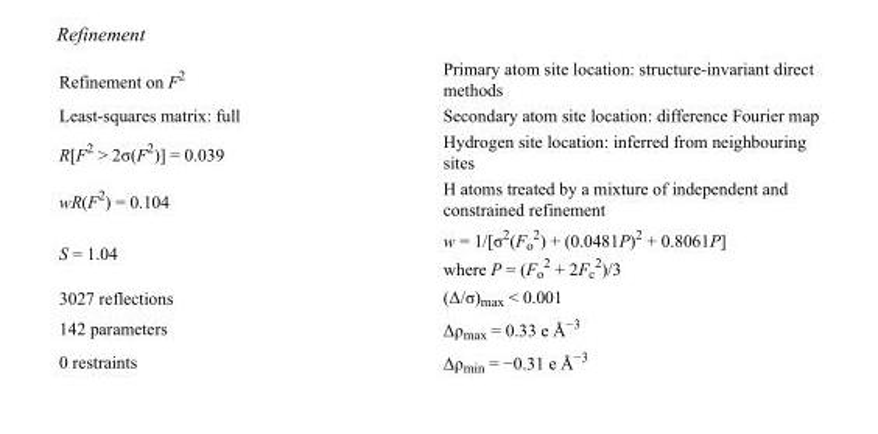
<table><tbody><tr><td>Refinement on F<sup>2</sup></td><td>Primary atom site location: structure-invariant direct methods</td></tr><tr><td>Least-squares matrix: full</td><td>Secondary atom site location: difference Fourier map</td></tr><tr><td>R[F<sup>2</sup> &gt; 2σ(F<sup>2</sup>)] = 0.039</td><td>Hydrogen site location: inferred from neighbouring sites</td></tr><tr><td>wR(F<sup>2</sup>) = 0.104</td><td>H atoms treated by a mixture of independent and constrained refinement</td></tr><tr><td>S = 1.04</td><td>w = 1/[σ<sup>2</sup>(F<sub>o</sub> <sup>2</sup>) + (0.0481P)<sup>2</sup> + 0.8061P] where P = (F<sub>o</sub> <sup>2</sup> + 2F<sub>c</sub> <sup>2</sup>)/3</td></tr><tr><td>3027 reflections</td><td>(Δ/σ)<sub>max</sub> &lt; 0.001</td></tr><tr><td>142 parameters</td><td>Δρ<sub>max</sub> = 0.33 e Å<sup>−3</sup></td></tr><tr><td>0 restraints</td><td>Δρ<sub>min</sub> = −0.31 e Å<sup>−3</sup></td></tr></tbody></table>